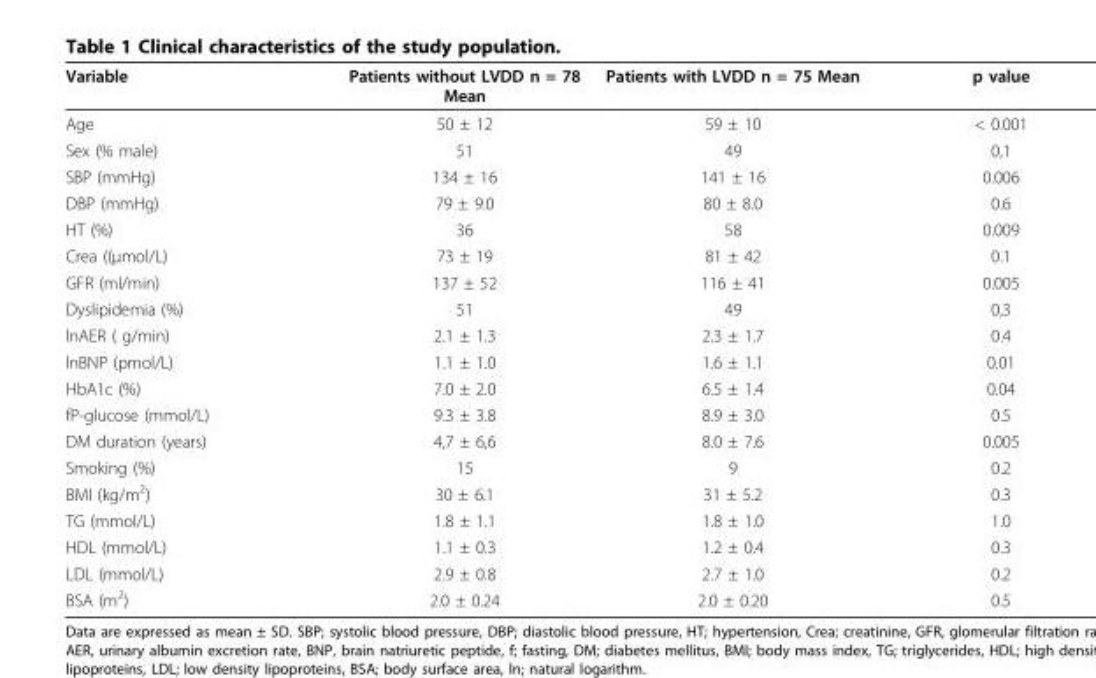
<table><thead><tr><td>Variable</td><td>Patients without LVDD n = 78 Mean</td><td>Patients with LVDD n = 75 Mean</td><td>p value</td></tr></thead><tbody><tr><td>Age</td><td>50 ± 12</td><td>59 ± 10</td><td>&lt; 0.001</td></tr><tr><td>Sex (% male)</td><td>51</td><td>49</td><td>0,1</td></tr><tr><td>SBP (mmHg)</td><td>134 ± 16</td><td>141 ± 16</td><td>0.006</td></tr><tr><td>DBP (mmHg)</td><td>79 ± 9.0</td><td>80 ± 8.0</td><td>0.6</td></tr><tr><td>HT (%)</td><td>36</td><td>58</td><td>0.009</td></tr><tr><td>Crea ((μmol/L)</td><td>73 ± 19</td><td>81 ± 42</td><td>0.1</td></tr><tr><td>GFR (ml/min)</td><td>137 ± 52</td><td>116 ± 41</td><td>0.005</td></tr><tr><td>Dyslipidemia (%)</td><td>51</td><td>49</td><td>0,3</td></tr><tr><td>lnAER ( g/min)</td><td>2.1 ± 1.3</td><td>2.3 ± 1.7</td><td>0.4</td></tr><tr><td>lnBNP (pmol/L)</td><td>1.1 ± 1.0</td><td>1.6 ± 1.1</td><td>0.01</td></tr><tr><td>HbA1c (%)</td><td>7.0 ± 2.0</td><td>6.5 ± 1.4</td><td>0.04</td></tr><tr><td>fP-glucose (mmol/L)</td><td>9.3 ± 3.8</td><td>8.9 ± 3.0</td><td>0.5</td></tr><tr><td>DM duration (years)</td><td>4,7 ± 6,6</td><td>8.0 ± 7.6</td><td>0.005</td></tr><tr><td>Smoking (%)</td><td>15</td><td>9</td><td>0.2</td></tr><tr><td>BMI (kg/m<sup>2</sup>)</td><td>30 ± 6.1</td><td>31 ± 5.2</td><td>0.3</td></tr><tr><td>TG (mmol/L)</td><td>1.8 ± 1.1</td><td>1.8 ± 1.0</td><td>1.0</td></tr><tr><td>HDL (mmol/L)</td><td>1.1 ± 0.3</td><td>1.2 ± 0.4</td><td>0.3</td></tr><tr><td>LDL (mmol/L)</td><td>2.9 ± 0.8</td><td>2.7 ± 1.0</td><td>0.2</td></tr><tr><td>BSA (m<sup>2</sup>)</td><td>2.0 ± 0.24</td><td>2.0 ± 0.20</td><td>0.5</td></tr></tbody></table>